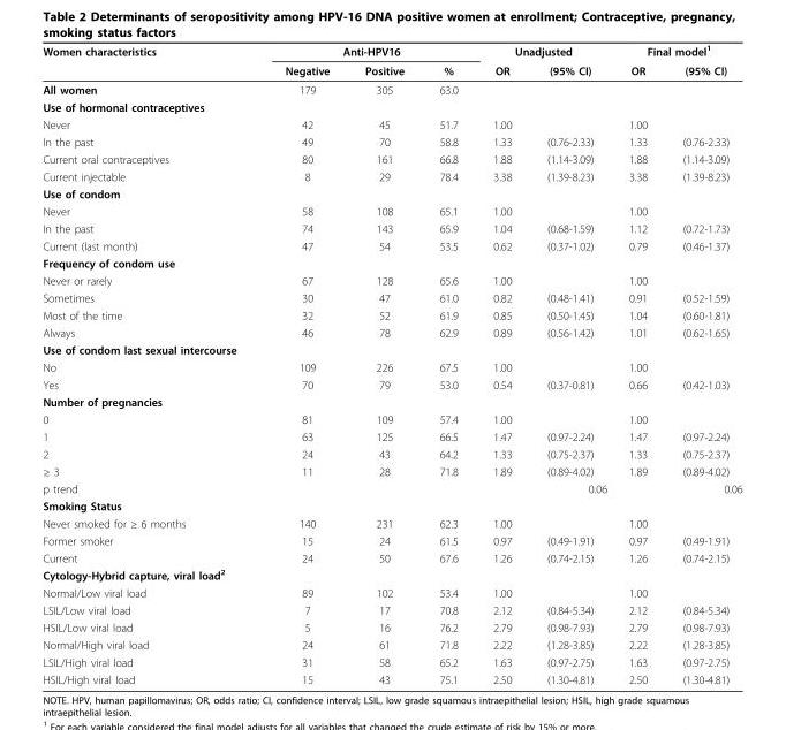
<table><thead><tr><td rowspan="2">Women characteristics</td><td colspan="3">Anti-HPV16</td><td colspan="2">Unadjusted</td><td colspan="2">Final model<sup>1</sup></td></tr><tr><td>Negative</td><td>Positive</td><td>%</td><td>OR</td><td>(95% CI)</td><td>OR</td><td>(95% CI)</td></tr></thead><tbody><tr><td>All women</td><td>179</td><td>305</td><td>63.0</td><td></td><td></td><td></td><td></td></tr><tr><td colspan="8">Use of hormonal contraceptives</td></tr><tr><td>Never</td><td>42</td><td>45</td><td>51.7</td><td>1.00</td><td></td><td>1.00</td><td></td></tr><tr><td>In the past</td><td>49</td><td>70</td><td>58.8</td><td>1.33</td><td>(0.76-2.33)</td><td>1.33</td><td>(0.76-2.33)</td></tr><tr><td>Current oral contraceptives</td><td>80</td><td>161</td><td>66.8</td><td>1.88</td><td>(1.14-3.09)</td><td>1.88</td><td>(1.14-3.09)</td></tr><tr><td>Current injectable</td><td>8</td><td>29</td><td>78.4</td><td>3.38</td><td>(1.39-8.23)</td><td>3.38</td><td>(1.39-8.23)</td></tr><tr><td colspan="8">Use of condom</td></tr><tr><td>Never</td><td>58</td><td>108</td><td>65.1</td><td>1.00</td><td></td><td>1.00</td><td></td></tr><tr><td>In the past</td><td>74</td><td>143</td><td>65.9</td><td>1.04</td><td>(0.68-1.59)</td><td>1.12</td><td>(0.72-1.73)</td></tr><tr><td>Current (last month)</td><td>47</td><td>54</td><td>53.5</td><td>0.62</td><td>(0.37-1.02)</td><td>0.79</td><td>(0.46-1.37)</td></tr><tr><td colspan="8">Frequency of condom use</td></tr><tr><td>Never or rarely</td><td>67</td><td>128</td><td>65.6</td><td>1.00</td><td></td><td>1.00</td><td></td></tr><tr><td>Sometimes</td><td>30</td><td>47</td><td>61.0</td><td>0.82</td><td>(0.48-1.41)</td><td>0.91</td><td>(0.52-1.59)</td></tr><tr><td>Most of the time</td><td>32</td><td>52</td><td>61.9</td><td>0.85</td><td>(0.50-1.45)</td><td>1.04</td><td>(0.60-1.81)</td></tr><tr><td>Always</td><td>46</td><td>78</td><td>62.9</td><td>0.89</td><td>(0.56-1.42)</td><td>1.01</td><td>(0.62-1.65)</td></tr><tr><td colspan="8">Use of condom last sexual intercourse</td></tr><tr><td>No</td><td>109</td><td>226</td><td>67.5</td><td>1.00</td><td></td><td>1.00</td><td></td></tr><tr><td>Yes</td><td>70</td><td>79</td><td>53.0</td><td>0.54</td><td>(0.37-0.81)</td><td>0.66</td><td>(0.42-1.03)</td></tr><tr><td colspan="8">Number of pregnancies</td></tr><tr><td>0</td><td>81</td><td>109</td><td>57.4</td><td>1.00</td><td></td><td>1.00</td><td></td></tr><tr><td>1</td><td>63</td><td>125</td><td>66.5</td><td>1.47</td><td>(0.97-2.24)</td><td>1.47</td><td>(0.97-2.24)</td></tr><tr><td>2</td><td>24</td><td>43</td><td>64.2</td><td>1.33</td><td>(0.75-2.37)</td><td>1.33</td><td>(0.75-2.37)</td></tr><tr><td>≥ 3</td><td>11</td><td>28</td><td>71.8</td><td>1.89</td><td>(0.89-4.02)</td><td>1.89</td><td>(0.89-4.02)</td></tr><tr><td>p trend</td><td></td><td></td><td></td><td></td><td>0.06</td><td></td><td>0.06</td></tr><tr><td colspan="8">Smoking Status</td></tr><tr><td>Never smoked for ≥ 6 months</td><td>140</td><td>231</td><td>62.3</td><td>1.00</td><td></td><td>1.00</td><td></td></tr><tr><td>Former smoker</td><td>15</td><td>24</td><td>61.5</td><td>0.97</td><td>(0.49-1.91)</td><td>0.97</td><td>(0.49-1.91)</td></tr><tr><td>Current</td><td>24</td><td>50</td><td>67.6</td><td>1.26</td><td>(0.74-2.15)</td><td>1.26</td><td>(0.74-2.15)</td></tr><tr><td colspan="8">Cytology-Hybrid capture, viral load<sup>2</sup></td></tr><tr><td>Normal/Low viral load</td><td>89</td><td>102</td><td>53.4</td><td>1.00</td><td></td><td>1.00</td><td></td></tr><tr><td>LSIL/Low viral load</td><td>7</td><td>17</td><td>70.8</td><td>2.12</td><td>(0.84-5.34)</td><td>2.12</td><td>(0.84-5.34)</td></tr><tr><td>HSIL/Low viral load</td><td>5</td><td>16</td><td>76.2</td><td>2.79</td><td>(0.98-7.93)</td><td>2.79</td><td>(0.98-7.93)</td></tr><tr><td>Normal/High viral load</td><td>24</td><td>61</td><td>71.8</td><td>2.22</td><td>(1.28-3.85)</td><td>2.22</td><td>(1.28-3.85)</td></tr><tr><td>LSIL/High viral load</td><td>31</td><td>58</td><td>65.2</td><td>1.63</td><td>(0.97-2.75)</td><td>1.63</td><td>(0.97-2.75)</td></tr><tr><td>HSIL/High viral load</td><td>15</td><td>43</td><td>75.1</td><td>2.50</td><td>(1.30-4.81)</td><td>2.50</td><td>(1.30-4.81)</td></tr></tbody></table>